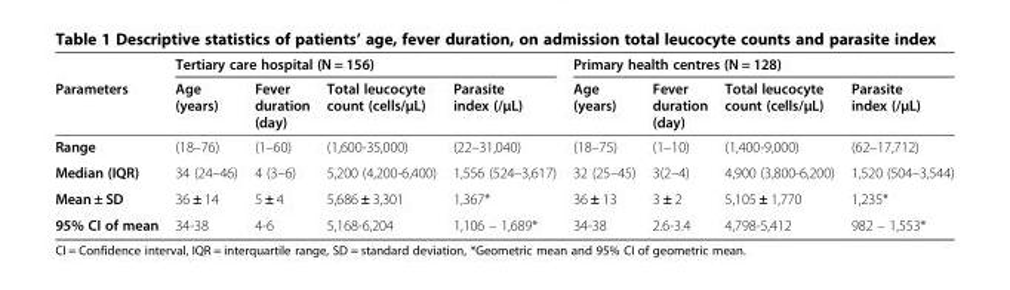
<table><thead><tr><td rowspan="2">Parameters</td><td colspan="4">Tertiary care hospital (N = 156)</td><td colspan="4">Primary health centres (N = 128)</td></tr><tr><td>Age (years)</td><td>Fever duration (day)</td><td>Total leucocyte count (cells/μL)</td><td>Parasite index (/μL)</td><td>Age (years)</td><td>Fever duration (day)</td><td>Total leucocyte count (cells/μL)</td><td>Parasite index (/μL)</td></tr></thead><tbody><tr><td>Range</td><td>(18–76)</td><td>(1–60)</td><td>(1,600-35,000)</td><td>(22–31,040)</td><td>(18–75)</td><td>(1–10)</td><td>(1,400-9,000)</td><td>(62–17,712)</td></tr><tr><td>Median (IQR)</td><td>34 (24–46)</td><td>4 (3–6)</td><td>5,200 (4,200-6,400)</td><td>1,556 (524–3,617)</td><td>32 (25–45)</td><td>3(2–4)</td><td>4,900 (3,800-6,200)</td><td>1,520 (504–3,544)</td></tr><tr><td>Mean ± SD</td><td>36 ± 14</td><td>5 ± 4</td><td>5,686 ± 3,301</td><td>1,367*</td><td>36 ± 13</td><td>3 ± 2</td><td>5,105 ± 1,770</td><td>1,235*</td></tr><tr><td>95% CI of mean</td><td>34-38</td><td>4-6</td><td>5,168-6,204</td><td>1,106 – 1,689*</td><td>34-38</td><td>2.6-3.4</td><td>4,798-5,412</td><td>982 – 1,553*</td></tr></tbody></table>